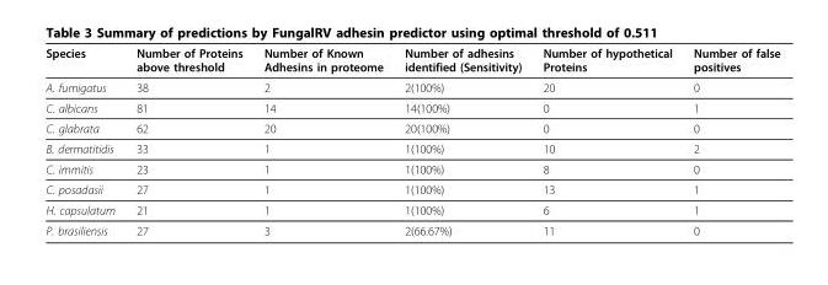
<table><thead><tr><td>Species</td><td>Number of Proteins above threshold</td><td>Number of Known Adhesins in proteome</td><td>Number of adhesins identified (Sensitivity)</td><td>Number of hypothetical Proteins</td><td>Number of false positives</td></tr></thead><tbody><tr><td>A. fumigatus</td><td>38</td><td>2</td><td>2(100%)</td><td>20</td><td>0</td></tr><tr><td>C. albicans</td><td>81</td><td>14</td><td>14(100%)</td><td>0</td><td>1</td></tr><tr><td>C. glabrata</td><td>62</td><td>20</td><td>20(100%)</td><td>0</td><td>0</td></tr><tr><td>B. dermatitidis</td><td>33</td><td>1</td><td>1(100%)</td><td>10</td><td>2</td></tr><tr><td>C. immitis</td><td>23</td><td>1</td><td>1(100%)</td><td>8</td><td>0</td></tr><tr><td>C. posadasii</td><td>27</td><td>1</td><td>1(100%)</td><td>13</td><td>1</td></tr><tr><td>H. capsulatum</td><td>21</td><td>1</td><td>1(100%)</td><td>6</td><td>1</td></tr><tr><td>P. brasiliensis</td><td>27</td><td>3</td><td>2(66.67%)</td><td>11</td><td>0</td></tr></tbody></table>